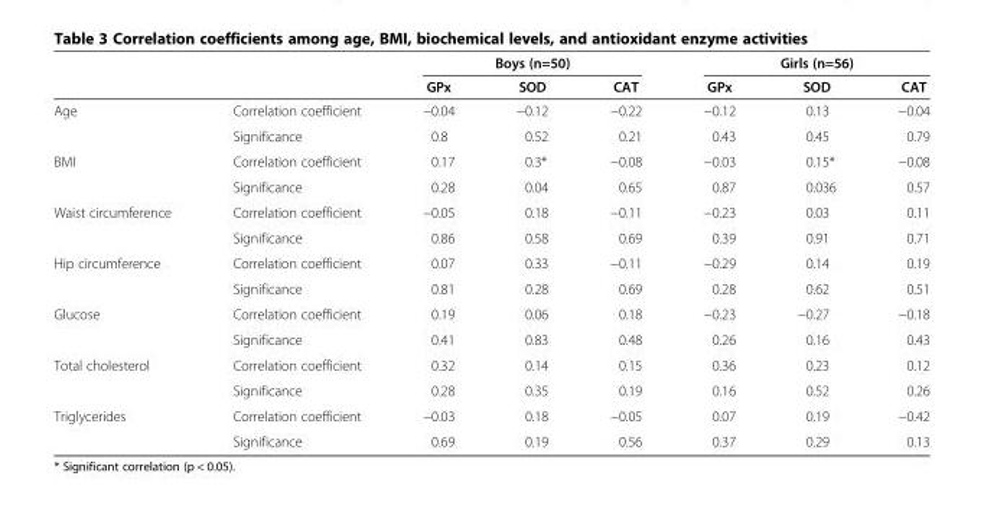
<table><thead><tr><td rowspan="2"></td><td rowspan="2"></td><td colspan="3">Boys (n=50)</td><td colspan="3">Girls (n=56)</td></tr><tr><td>GPx</td><td>SOD</td><td>CAT</td><td>GPx</td><td>SOD</td><td>CAT</td></tr></thead><tbody><tr><td rowspan="2">Age</td><td>Correlation coefficient</td><td>−0.04</td><td>−0.12</td><td>−0.22</td><td>−0.12</td><td>0.13</td><td>−0.04</td></tr><tr><td>Significance</td><td>0.8</td><td>0.52</td><td>0.21</td><td>0.43</td><td>0.45</td><td>0.79</td></tr><tr><td rowspan="2">BMI</td><td>Correlation coefficient</td><td>0.17</td><td>0.3*</td><td>−0.08</td><td>−0.03</td><td>0.15*</td><td>−0.08</td></tr><tr><td>Significance</td><td>0.28</td><td>0.04</td><td>0.65</td><td>0.87</td><td>0.036</td><td>0.57</td></tr><tr><td rowspan="2">Waist circumference</td><td>Correlation coefficient</td><td>−0.05</td><td>0.18</td><td>−0.11</td><td>−0.23</td><td>0.03</td><td>0.11</td></tr><tr><td>Significance</td><td>0.86</td><td>0.58</td><td>0.69</td><td>0.39</td><td>0.91</td><td>0.71</td></tr><tr><td rowspan="2">Hip circumference</td><td>Correlation coefficient</td><td>0.07</td><td>0.33</td><td>−0.11</td><td>−0.29</td><td>0.14</td><td>0.19</td></tr><tr><td>Significance</td><td>0.81</td><td>0.28</td><td>0.69</td><td>0.28</td><td>0.62</td><td>0.51</td></tr><tr><td rowspan="2">Glucose</td><td>Correlation coefficient</td><td>0.19</td><td>0.06</td><td>0.18</td><td>−0.23</td><td>−0.27</td><td>−0.18</td></tr><tr><td>Significance</td><td>0.41</td><td>0.83</td><td>0.48</td><td>0.26</td><td>0.16</td><td>0.43</td></tr><tr><td rowspan="2">Total cholesterol</td><td>Correlation coefficient</td><td>0.32</td><td>0.14</td><td>0.15</td><td>0.36</td><td>0.23</td><td>0.12</td></tr><tr><td>Significance</td><td>0.28</td><td>0.35</td><td>0.19</td><td>0.16</td><td>0.52</td><td>0.26</td></tr><tr><td rowspan="2">Triglycerides</td><td>Correlation coefficient</td><td>−0.03</td><td>0.18</td><td>−0.05</td><td>0.07</td><td>0.19</td><td>−0.42</td></tr><tr><td>Significance</td><td>0.69</td><td>0.19</td><td>0.56</td><td>0.37</td><td>0.29</td><td>0.13</td></tr></tbody></table>